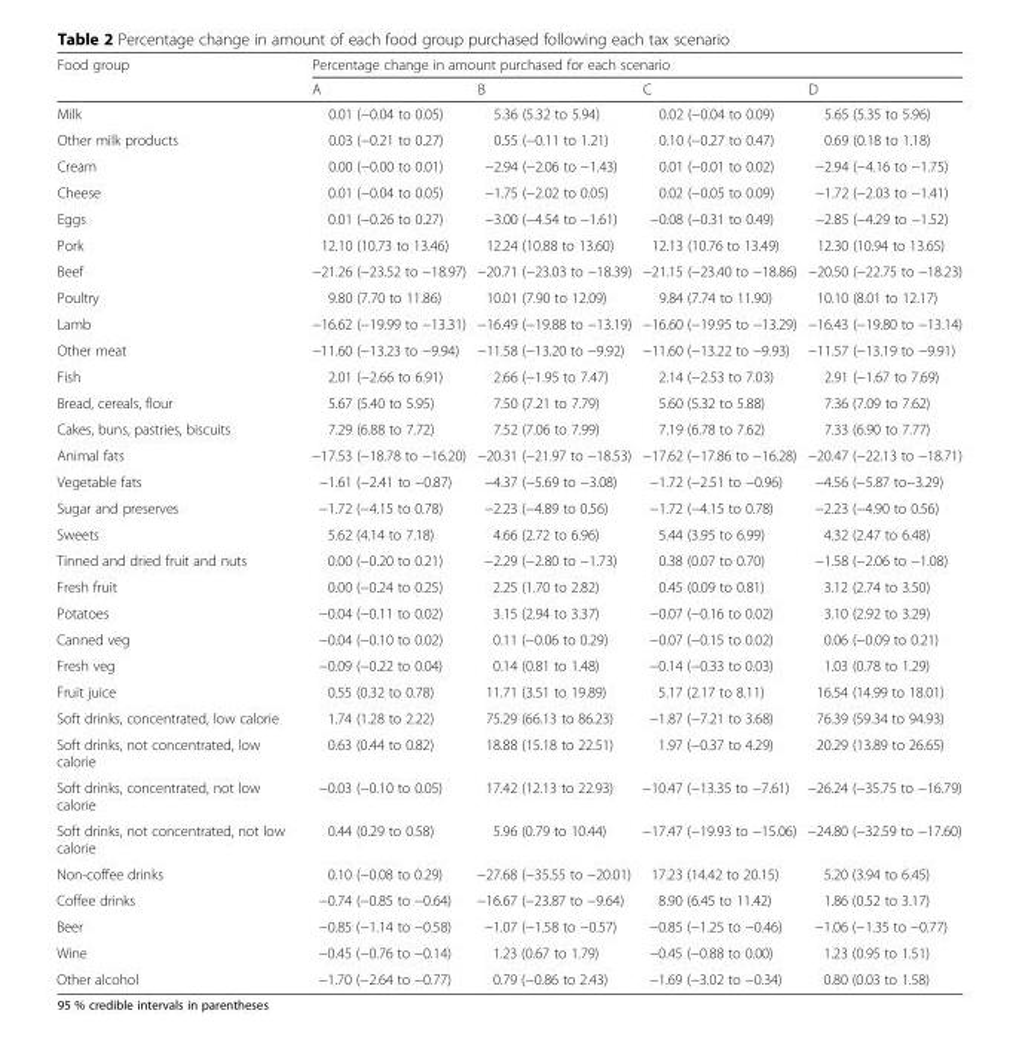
<table><thead><tr><td rowspan="2">Food group</td><td colspan="4">Percentage change in amount purchased for each scenario</td></tr><tr><td>A</td><td>B</td><td>C</td><td>D</td></tr></thead><tbody><tr><td>Milk</td><td>0.01 (−0.04 to 0.05)</td><td>5.36 (5.32 to 5.94)</td><td>0.02 (−0.04 to 0.09)</td><td>5.65 (5.35 to 5.96)</td></tr><tr><td>Other milk products</td><td>0.03 (−0.21 to 0.27)</td><td>0.55 (−0.11 to 1.21)</td><td>0.10 (−0.27 to 0.47)</td><td>0.69 (0.18 to 1.18)</td></tr><tr><td>Cream</td><td>0.00 (−0.00 to 0.01)</td><td>−2.94 (−2.06 to −1.43)</td><td>0.01 (−0.01 to 0.02)</td><td>−2.94 (−4.16 to −1.75)</td></tr><tr><td>Cheese</td><td>0.01 (−0.04 to 0.05)</td><td>−1.75 (−2.02 to 0.05)</td><td>0.02 (−0.05 to 0.09)</td><td>−1.72 (−2.03 to −1.41)</td></tr><tr><td>Eggs</td><td>0.01 (−0.26 to 0.27)</td><td>−3.00 (−4.54 to −1.61)</td><td>−0.08 (−0.31 to 0.49)</td><td>−2.85 (−4.29 to −1.52)</td></tr><tr><td>Pork</td><td>12.10 (10.73 to 13.46)</td><td>12.24 (10.88 to 13.60)</td><td>12.13 (10.76 to 13.49)</td><td>12.30 (10.94 to 13.65)</td></tr><tr><td>Beef</td><td>−21.26 (−23.52 to −18.97)</td><td>−20.71 (−23.03 to −18.39)</td><td>−21.15 (−23.40 to −18.86)</td><td>−20.50 (−22.75 to −18.23)</td></tr><tr><td>Poultry</td><td>9.80 (7.70 to 11.86)</td><td>10.01 (7.90 to 12.09)</td><td>9.84 (7.74 to 11.90)</td><td>10.10 (8.01 to 12.17)</td></tr><tr><td>Lamb</td><td>−16.62 (−19.99 to −13.31)</td><td>−16.49 (−19.88 to −13.19)</td><td>−16.60 (−19.95 to −13.29)</td><td>−16.43 (−19.80 to −13.14)</td></tr><tr><td>Other meat</td><td>−11.60 (−13.23 to −9.94)</td><td>−11.58 (−13.20 to −9.92)</td><td>−11.60 (−13.22 to −9.93)</td><td>−11.57 (−13.19 to −9.91)</td></tr><tr><td>Fish</td><td>2.01 (−2.66 to 6.91)</td><td>2.66 (−1.95 to 7.47)</td><td>2.14 (−2.53 to 7.03)</td><td>2.91 (−1.67 to 7.69)</td></tr><tr><td>Bread, cereals, flour</td><td>5.67 (5.40 to 5.95)</td><td>7.50 (7.21 to 7.79)</td><td>5.60 (5.32 to 5.88)</td><td>7.36 (7.09 to 7.62)</td></tr><tr><td>Cakes, buns, pastries, biscuits</td><td>7.29 (6.88 to 7.72)</td><td>7.52 (7.06 to 7.99)</td><td>7.19 (6.78 to 7.62)</td><td>7.33 (6.90 to 7.77)</td></tr><tr><td>Animal fats</td><td>−17.53 (−18.78 to −16.20)</td><td>−20.31 (−21.97 to −18.53)</td><td>−17.62 (−17.86 to −16.28)</td><td>−20.47 (−22.13 to −18.71)</td></tr><tr><td>Vegetable fats</td><td>−1.61 (−2.41 to −0.87)</td><td>−4.37 (−5.69 to −3.08)</td><td>−1.72 (−2.51 to −0.96)</td><td>−4.56 (−5.87 to−3.29)</td></tr><tr><td>Sugar and preserves</td><td>−1.72 (−4.15 to 0.78)</td><td>−2.23 (−4.89 to 0.56)</td><td>−1.72 (−4.15 to 0.78)</td><td>−2.23 (−4.90 to 0.56)</td></tr><tr><td>Sweets</td><td>5.62 (4.14 to 7.18)</td><td>4.66 (2.72 to 6.96)</td><td>5.44 (3.95 to 6.99)</td><td>4.32 (2.47 to 6.48)</td></tr><tr><td>Tinned and dried fruit and nuts</td><td>0.00 (−0.20 to 0.21)</td><td>−2.29 (−2.80 to −1.73)</td><td>0.38 (0.07 to 0.70)</td><td>−1.58 (−2.06 to −1.08)</td></tr><tr><td>Fresh fruit</td><td>0.00 (−0.24 to 0.25)</td><td>2.25 (1.70 to 2.82)</td><td>0.45 (0.09 to 0.81)</td><td>3.12 (2.74 to 3.50)</td></tr><tr><td>Potatoes</td><td>−0.04 (−0.11 to 0.02)</td><td>3.15 (2.94 to 3.37)</td><td>−0.07 (−0.16 to 0.02)</td><td>3.10 (2.92 to 3.29)</td></tr><tr><td>Canned veg</td><td>−0.04 (−0.10 to 0.02)</td><td>0.11 (−0.06 to 0.29)</td><td>−0.07 (−0.15 to 0.02)</td><td>0.06 (−0.09 to 0.21)</td></tr><tr><td>Fresh veg</td><td>−0.09 (−0.22 to 0.04)</td><td>0.14 (0.81 to 1.48)</td><td>−0.14 (−0.33 to 0.03)</td><td>1.03 (0.78 to 1.29)</td></tr><tr><td>Fruit juice</td><td>0.55 (0.32 to 0.78)</td><td>11.71 (3.51 to 19.89)</td><td>5.17 (2.17 to 8.11)</td><td>16.54 (14.99 to 18.01)</td></tr><tr><td>Soft drinks, concentrated, low calorie</td><td>1.74 (1.28 to 2.22)</td><td>75.29 (66.13 to 86.23)</td><td>−1.87 (−7.21 to 3.68)</td><td>76.39 (59.34 to 94.93)</td></tr><tr><td>Soft drinks, not concentrated, low calorie</td><td>0.63 (0.44 to 0.82)</td><td>18.88 (15.18 to 22.51)</td><td>1.97 (−0.37 to 4.29)</td><td>20.29 (13.89 to 26.65)</td></tr><tr><td>Soft drinks, concentrated, not low calorie</td><td>−0.03 (−0.10 to 0.05)</td><td>17.42 (12.13 to 22.93)</td><td>−10.47 (−13.35 to −7.61)</td><td>−26.24 (−35.75 to −16.79)</td></tr><tr><td>Soft drinks, not concentrated, not low calorie</td><td>0.44 (0.29 to 0.58)</td><td>5.96 (0.79 to 10.44)</td><td>−17.47 (−19.93 to −15.06)</td><td>−24.80 (−32.59 to −17.60)</td></tr><tr><td>Non-coffee drinks</td><td>0.10 (−0.08 to 0.29)</td><td>−27.68 (−35.55 to −20.01)</td><td>17.23 (14.42 to 20.15)</td><td>5.20 (3.94 to 6.45)</td></tr><tr><td>Coffee drinks</td><td>−0.74 (−0.85 to −0.64)</td><td>−16.67 (−23.87 to −9.64)</td><td>8.90 (6.45 to 11.42)</td><td>1.86 (0.52 to 3.17)</td></tr><tr><td>Beer</td><td>−0.85 (−1.14 to −0.58)</td><td>−1.07 (−1.58 to −0.57)</td><td>−0.85 (−1.25 to −0.46)</td><td>−1.06 (−1.35 to −0.77)</td></tr><tr><td>Wine</td><td>−0.45 (−0.76 to −0.14)</td><td>1.23 (0.67 to 1.79)</td><td>−0.45 (−0.88 to 0.00)</td><td>1.23 (0.95 to 1.51)</td></tr><tr><td>Other alcohol</td><td>−1.70 (−2.64 to −0.77)</td><td>0.79 (−0.86 to 2.43)</td><td>−1.69 (−3.02 to −0.34)</td><td>0.80 (0.03 to 1.58)</td></tr></tbody></table>